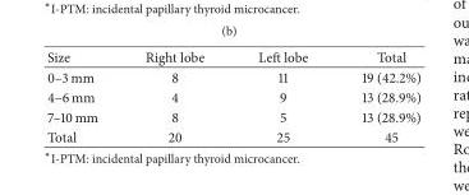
<table><thead><tr><td>Size</td><td>Right lobe</td><td>Left lobe</td><td>Total</td></tr></thead><tbody><tr><td>0–3 mm</td><td>8</td><td>11</td><td>19 (42.2%)</td></tr><tr><td>4–6 mm</td><td>4</td><td>9</td><td>13 (28.9%)</td></tr><tr><td>7–10 mm</td><td>8</td><td>5</td><td>13 (28.9%)</td></tr><tr><td>Total</td><td>20</td><td>25</td><td>45</td></tr></tbody></table>